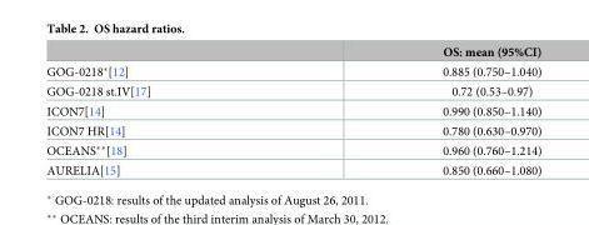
<table><thead><tr><td></td><td>OS: mean (95%CI)</td></tr></thead><tbody><tr><td>GOG-0218*[12]</td><td>0.885 (0.750–1.040)</td></tr><tr><td>GOG-0218 st.IV[17]</td><td>0.72 (0.53–0.97)</td></tr><tr><td>ICON7[14]</td><td>0.990 (0.850–1.140)</td></tr><tr><td>ICON7 HR[14]</td><td>0.780 (0.630–0.970)</td></tr><tr><td>OCEANS**[18]</td><td>0.960 (0.760–1.214)</td></tr><tr><td>AURELIA[15]</td><td>0.850 (0.660–1.080)</td></tr></tbody></table>